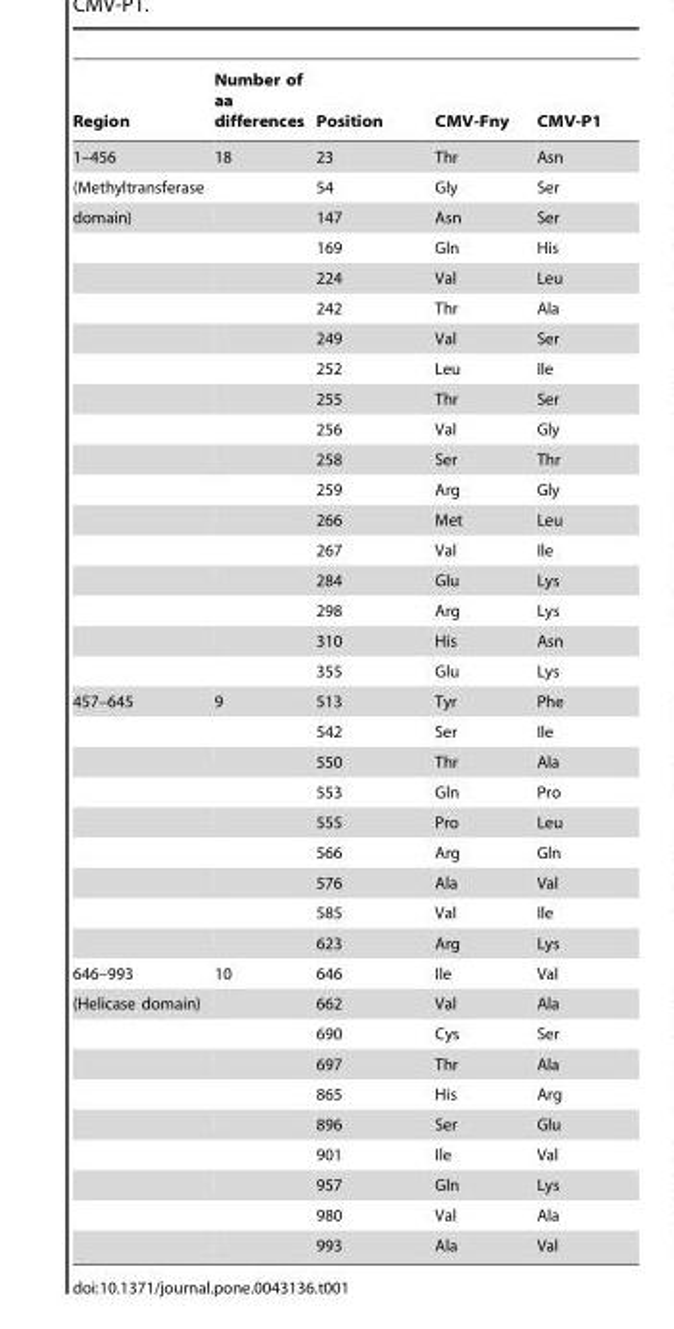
<table><thead><tr><td>Region</td><td>Number of aa differences</td><td>Position</td><td>CMV-Fny</td><td>CMV-P1</td></tr></thead><tbody><tr><td>1–456</td><td>18</td><td>23</td><td>Thr</td><td>Asn</td></tr><tr><td>(Methyltransferase</td><td></td><td>54</td><td>Gly</td><td>Ser</td></tr><tr><td rowspan="16">domain)</td><td></td><td>147</td><td>Asn</td><td>Ser</td></tr><tr><td></td><td>169</td><td>Gln</td><td>His</td></tr><tr><td></td><td>224</td><td>Val</td><td>Leu</td></tr><tr><td></td><td>242</td><td>Thr</td><td>Ala</td></tr><tr><td></td><td>249</td><td>Val</td><td>Ser</td></tr><tr><td></td><td>252</td><td>Leu</td><td>Ile</td></tr><tr><td></td><td>255</td><td>Thr</td><td>Ser</td></tr><tr><td></td><td>256</td><td>Val</td><td>Gly</td></tr><tr><td></td><td>258</td><td>Ser</td><td>Thr</td></tr><tr><td></td><td>259</td><td>Arg</td><td>Gly</td></tr><tr><td></td><td>266</td><td>Met</td><td>Leu</td></tr><tr><td></td><td>267</td><td>Val</td><td>Ile</td></tr><tr><td></td><td>284</td><td>Glu</td><td>Lys</td></tr><tr><td></td><td>298</td><td>Arg</td><td>Lys</td></tr><tr><td></td><td>310</td><td>His</td><td>Asn</td></tr><tr><td></td><td>355</td><td>Glu</td><td>Lys</td></tr><tr><td rowspan="9">457–645</td><td>9</td><td>513</td><td>Tyr</td><td>Phe</td></tr><tr><td></td><td>542</td><td>Ser</td><td>Ile</td></tr><tr><td></td><td>550</td><td>Thr</td><td>Ala</td></tr><tr><td></td><td>553</td><td>Gln</td><td>Pro</td></tr><tr><td></td><td>555</td><td>Pro</td><td>Leu</td></tr><tr><td></td><td>566</td><td>Arg</td><td>Gln</td></tr><tr><td></td><td>576</td><td>Ala</td><td>Val</td></tr><tr><td></td><td>585</td><td>Val</td><td>Ile</td></tr><tr><td></td><td>623</td><td>Arg</td><td>Lys</td></tr><tr><td>646–993</td><td>10</td><td>646</td><td>Ile</td><td>Val</td></tr><tr><td rowspan="9">(Helicase domain)</td><td></td><td>662</td><td>Val</td><td>Ala</td></tr><tr><td></td><td>690</td><td>Cys</td><td>Ser</td></tr><tr><td></td><td>697</td><td>Thr</td><td>Ala</td></tr><tr><td></td><td>865</td><td>His</td><td>Arg</td></tr><tr><td></td><td>896</td><td>Ser</td><td>Glu</td></tr><tr><td></td><td>901</td><td>Ile</td><td>Val</td></tr><tr><td></td><td>957</td><td>Gln</td><td>Lys</td></tr><tr><td></td><td>980</td><td>Val</td><td>Ala</td></tr><tr><td></td><td>993</td><td>Ala</td><td>Val</td></tr></tbody></table>